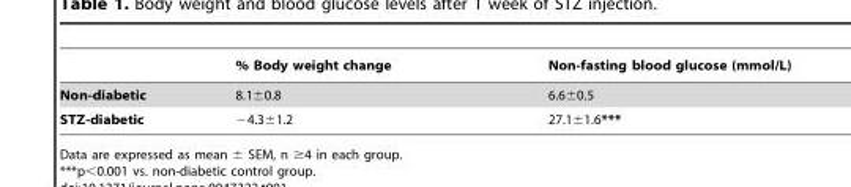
<table><thead><tr><td></td><td>% Body weight change</td><td>Non-fasting blood glucose (mmol/L)</td></tr></thead><tbody><tr><td>Non-diabetic</td><td>8.1±0.8</td><td>6.6±0.5</td></tr><tr><td>STZ-diabetic</td><td>−4.3±1.2</td><td>27.1±1.6***</td></tr></tbody></table>